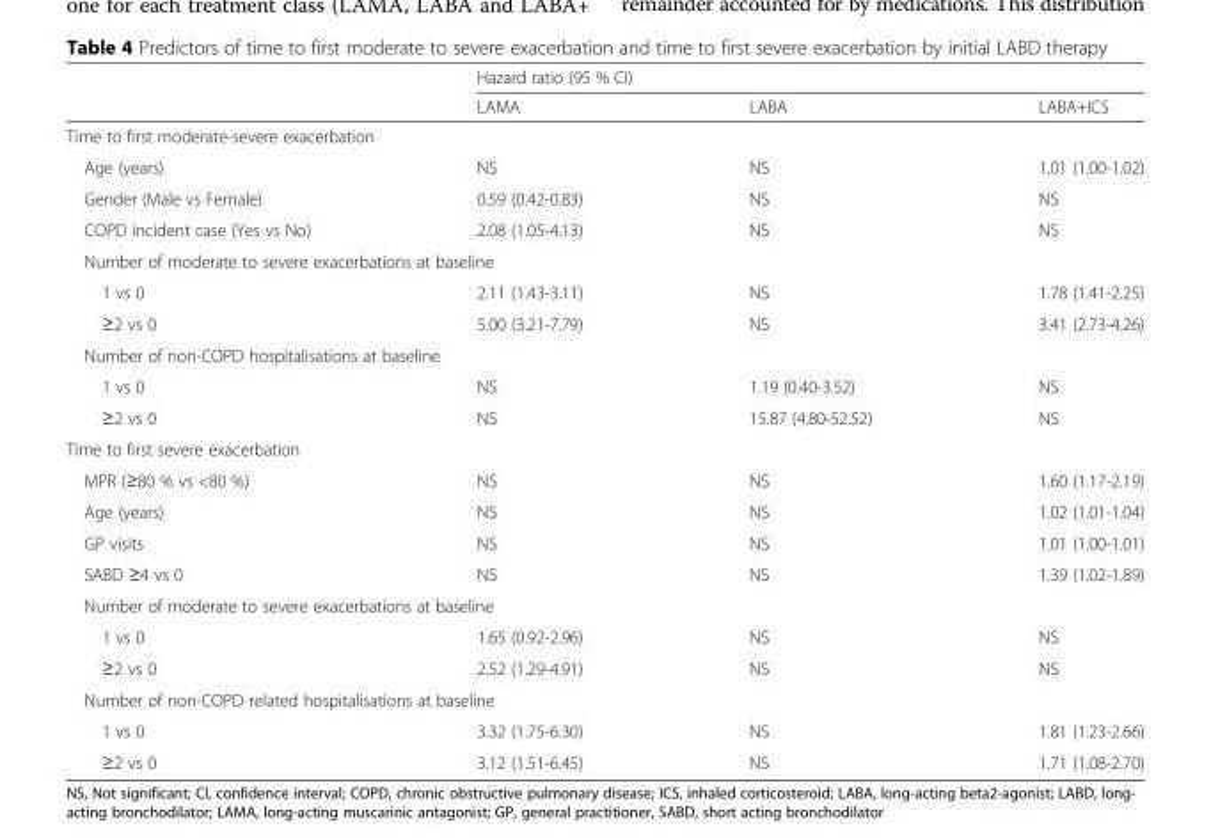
<table><thead><tr><td rowspan="2"></td><td colspan="3">Hazard ratio (95 % CI)</td></tr><tr><td>LAMA</td><td>LABA</td><td>LABA+ICS</td></tr></thead><tbody><tr><td colspan="4">Time to first moderate-severe exacerbation</td></tr><tr><td>Age (years)</td><td>NS</td><td>NS</td><td>1.01 (1.00-1.02)</td></tr><tr><td>Gender (Male vs Female)</td><td>0.59 (0.42-0.83)</td><td>NS</td><td>NS</td></tr><tr><td>COPD incident case (Yes vs No)</td><td>2.08 (1.05-4.13)</td><td>NS</td><td>NS</td></tr><tr><td colspan="4">Number of moderate to severe exacerbations at baseline</td></tr><tr><td>1 vs 0</td><td>2.11 (1.43-3.11)</td><td>NS</td><td>1.78 (1.41-2.25)</td></tr><tr><td>≥2 vs 0</td><td>5.00 (3.21-7.79)</td><td>NS</td><td>3.41 (2.73-4.26)</td></tr><tr><td colspan="4">Number of non-COPD hospitalisations at baseline</td></tr><tr><td>1 vs 0</td><td>NS</td><td>1.19 (0.40-3.52)</td><td>NS</td></tr><tr><td>≥2 vs 0</td><td>NS</td><td>15.87 (4.80-52.52)</td><td>NS</td></tr><tr><td colspan="4">Time to first severe exacerbation</td></tr><tr><td>MPR (≥80 % vs &lt;80 %)</td><td>NS</td><td>NS</td><td>1.60 (1.17-2.19)</td></tr><tr><td>Age (years)</td><td>NS</td><td>NS</td><td>1.02 (1.01-1.04)</td></tr><tr><td>GP visits</td><td>NS</td><td>NS</td><td>1.01 (1.00-1.01)</td></tr><tr><td>SABD ≥4 vs 0</td><td>NS</td><td>NS</td><td>1.39 (1.02-1.89)</td></tr><tr><td colspan="4">Number of moderate to severe exacerbations at baseline</td></tr><tr><td>1 vs 0</td><td>1.65 (0.92-2.96)</td><td>NS</td><td>NS</td></tr><tr><td>≥2 vs 0</td><td>2.52 (1.29-4.91)</td><td>NS</td><td>NS</td></tr><tr><td colspan="4">Number of non-COPD related hospitalisations at baseline</td></tr><tr><td>1 vs 0</td><td>3.32 (1.75-6.30)</td><td>NS</td><td>1.81 (1.23-2.66)</td></tr><tr><td>≥2 vs 0</td><td>3.12 (1.51-6.45)</td><td>NS</td><td>1.71 (1.08-2.70)</td></tr></tbody></table>